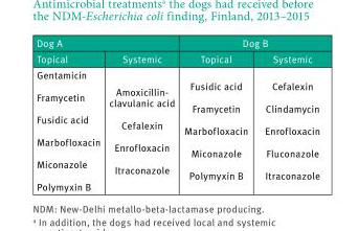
<table><thead><tr><td colspan="2">Dog A</td><td colspan="2">Dog B</td></tr><tr><td>Topical</td><td>Systemic</td><td>Topical</td><td>Systemic</td></tr></thead><tbody><tr><td>Gentamicin Framycetin Fusidic acid Marbofloxacin Miconazole Polymyxin B</td><td>Amoxicillin- clavulanic acid Cefalexin Enrofloxacin Itraconazole</td><td>Fusidic acid Framycetin Marbofloxacin Miconazole Polymyxin B</td><td>Cefalexin Clindamycin Enrofloxacin Fluconazole Itraconazole</td></tr></tbody></table>